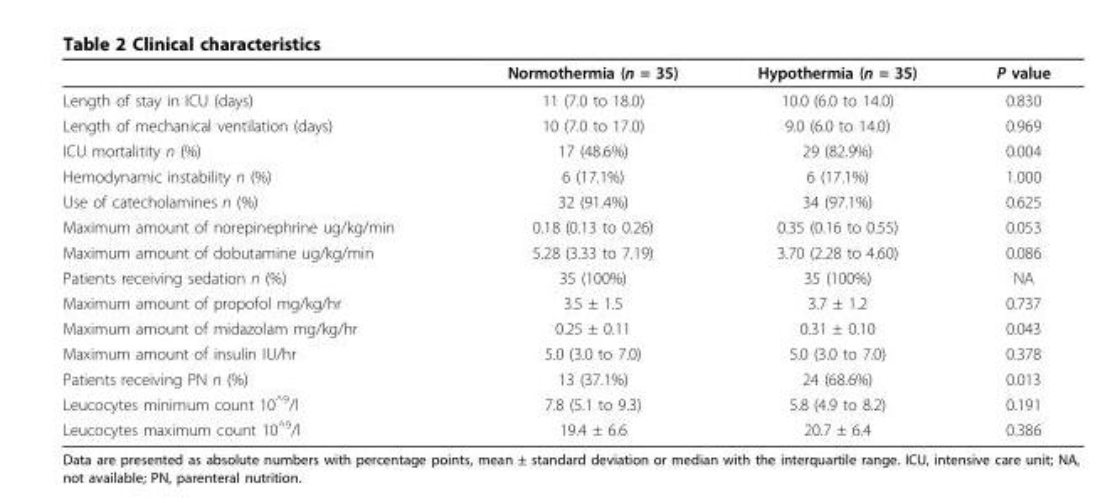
<table><thead><tr><td></td><td>Normothermia (n = 35)</td><td>Hypothermia (n = 35)</td><td>P value</td></tr></thead><tbody><tr><td>Length of stay in ICU (days)</td><td>11 (7.0 to 18.0)</td><td>10.0 (6.0 to 14.0)</td><td>0.830</td></tr><tr><td>Length of mechanical ventilation (days)</td><td>10 (7.0 to 17.0)</td><td>9.0 (6.0 to 14.0)</td><td>0.969</td></tr><tr><td>ICU mortalitity n (%)</td><td>17 (48.6%)</td><td>29 (82.9%)</td><td>0.004</td></tr><tr><td>Hemodynamic instability n (%)</td><td>6 (17.1%)</td><td>6 (17.1%)</td><td>1.000</td></tr><tr><td>Use of catecholamines n (%)</td><td>32 (91.4%)</td><td>34 (97.1%)</td><td>0.625</td></tr><tr><td>Maximum amount of norepinephrine ug/kg/min</td><td>0.18 (0.13 to 0.26)</td><td>0.35 (0.16 to 0.55)</td><td>0.053</td></tr><tr><td>Maximum amount of dobutamine ug/kg/min</td><td>5.28 (3.33 to 7.19)</td><td>3.70 (2.28 to 4.60)</td><td>0.086</td></tr><tr><td>Patients receiving sedation n (%)</td><td>35 (100%)</td><td>35 (100%)</td><td>NA</td></tr><tr><td>Maximum amount of propofol mg/kg/hr</td><td>3.5 ± 1.5</td><td>3.7 ± 1.2</td><td>0.737</td></tr><tr><td>Maximum amount of midazolam mg/kg/hr</td><td>0.25 ± 0.11</td><td>0.31 ± 0.10</td><td>0.043</td></tr><tr><td>Maximum amount of insulin IU/hr</td><td>5.0 (3.0 to 7.0)</td><td>5.0 (3.0 to 7.0)</td><td>0.378</td></tr><tr><td>Patients receiving PN n (%)</td><td>13 (37.1%)</td><td>24 (68.6%)</td><td>0.013</td></tr><tr><td>Leucocytes minimum count 10^9/l</td><td>7.8 (5.1 to 9.3)</td><td>5.8 (4.9 to 8.2)</td><td>0.191</td></tr><tr><td>Leucocytes maximum count 10^9/l</td><td>19.4 ± 6.6</td><td>20.7 ± 6.4</td><td>0.386</td></tr></tbody></table>